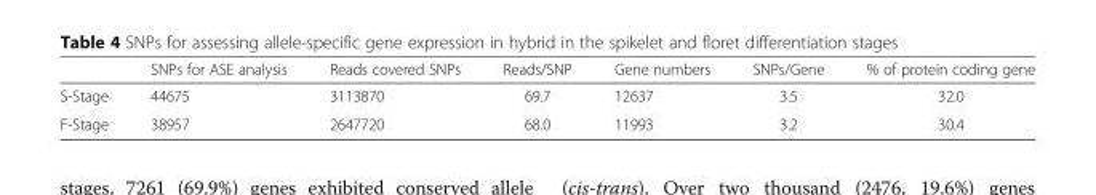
<table><thead><tr><td></td><td>SNPs for ASE analysis</td><td>Reads covered SNPs</td><td>Reads/SNP</td><td>Gene numbers</td><td>SNPs/Gene</td><td>% of protein coding gene</td></tr></thead><tbody><tr><td>S-Stage</td><td>44675</td><td>3113870</td><td>69.7</td><td>12637</td><td>3.5</td><td>32.0</td></tr><tr><td>F-Stage</td><td>38957</td><td>2647720</td><td>68.0</td><td>11993</td><td>3.2</td><td>30.4</td></tr></tbody></table>